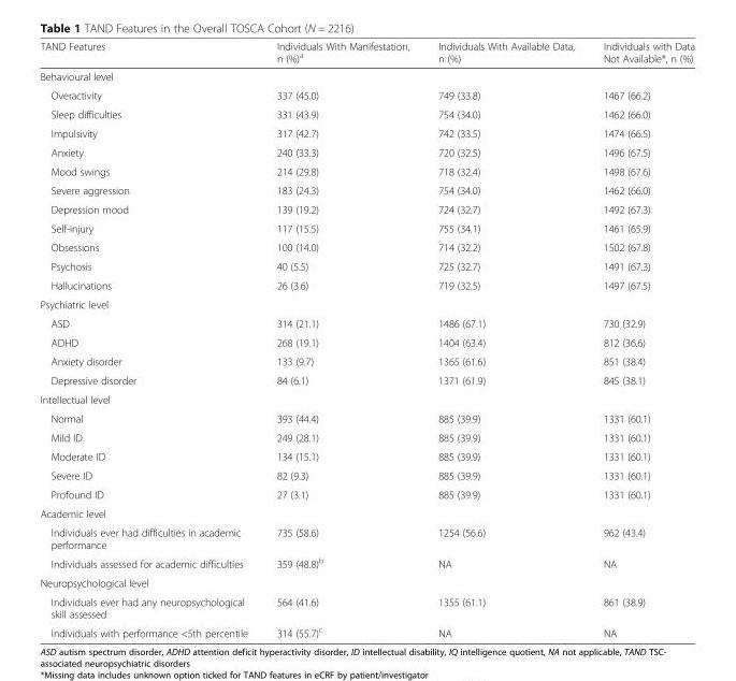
<table><thead><tr><td>TAND Features</td><td>Individuals With Manifestation, n (%)<sup>a</sup></td><td>Individuals With Available Data, n (%)</td><td>Individuals with Data Not Available*, n (%)</td></tr></thead><tbody><tr><td colspan="4">Behavioural level</td></tr><tr><td>Overactivity</td><td>337 (45.0)</td><td>749 (33.8)</td><td>1467 (66.2)</td></tr><tr><td>Sleep difficulties</td><td>331 (43.9)</td><td>754 (34.0)</td><td>1462 (66.0)</td></tr><tr><td>Impulsivity</td><td>317 (42.7)</td><td>742 (33.5)</td><td>1474 (66.5)</td></tr><tr><td>Anxiety</td><td>240 (33.3)</td><td>720 (32.5)</td><td>1496 (67.5)</td></tr><tr><td>Mood swings</td><td>214 (29.8)</td><td>718 (32.4)</td><td>1498 (67.6)</td></tr><tr><td>Severe aggression</td><td>183 (24.3)</td><td>754 (34.0)</td><td>1462 (66.0)</td></tr><tr><td>Depression mood</td><td>139 (19.2)</td><td>724 (32.7)</td><td>1492 (67.3)</td></tr><tr><td>Self-injury</td><td>117 (15.5)</td><td>755 (34.1)</td><td>1461 (65.9)</td></tr><tr><td>Obsessions</td><td>100 (14.0)</td><td>714 (32.2)</td><td>1502 (67.8)</td></tr><tr><td>Psychosis</td><td>40 (5.5)</td><td>725 (32.7)</td><td>1491 (67.3)</td></tr><tr><td>Hallucinations</td><td>26 (3.6)</td><td>719 (32.5)</td><td>1497 (67.5)</td></tr><tr><td colspan="4">Psychiatric level</td></tr><tr><td>ASD</td><td>314 (21.1)</td><td>1486 (67.1)</td><td>730 (32.9)</td></tr><tr><td>ADHD</td><td>268 (19.1)</td><td>1404 (63.4)</td><td>812 (36.6)</td></tr><tr><td>Anxiety disorder</td><td>133 (9.7)</td><td>1365 (61.6)</td><td>851 (38.4)</td></tr><tr><td>Depressive disorder</td><td>84 (6.1)</td><td>1371 (61.9)</td><td>845 (38.1)</td></tr><tr><td colspan="4">Intellectual level</td></tr><tr><td>Normal</td><td>393 (44.4)</td><td>885 (39.9)</td><td>1331 (60.1)</td></tr><tr><td>Mild ID</td><td>249 (28.1)</td><td>885 (39.9)</td><td>1331 (60.1)</td></tr><tr><td>Moderate ID</td><td>134 (15.1)</td><td>885 (39.9)</td><td>1331 (60.1)</td></tr><tr><td>Severe ID</td><td>82 (9.3)</td><td>885 (39.9)</td><td>1331 (60.1)</td></tr><tr><td>Profound ID</td><td>27 (3.1)</td><td>885 (39.9)</td><td>1331 (60.1)</td></tr><tr><td colspan="4">Academic level</td></tr><tr><td>Individuals ever had difficulties in academic performance</td><td>735 (58.6)</td><td>1254 (56.6)</td><td>962 (43.4)</td></tr><tr><td>Individuals assessed for academic difficulties</td><td>359 (48.8)<sup>b</sup></td><td>NA</td><td>NA</td></tr><tr><td colspan="4">Neuropsychological level</td></tr><tr><td>Individuals ever had any neuropsychological skill assessed</td><td>564 (41.6)</td><td>1355 (61.1)</td><td>861 (38.9)</td></tr><tr><td>Individuals with performance &lt;5th percentile</td><td>314 (55.7)<sup>c</sup></td><td>NA</td><td>NA</td></tr></tbody></table>